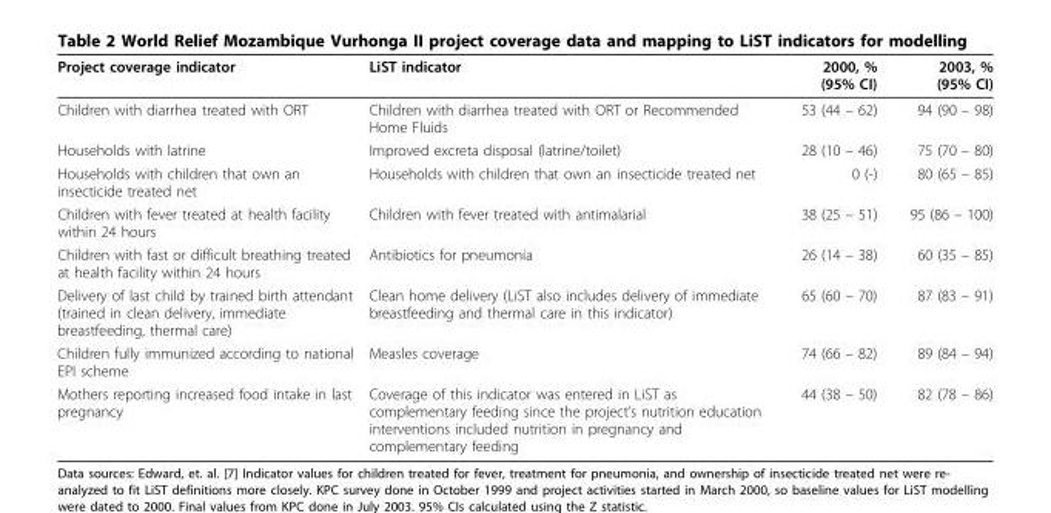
<table><thead><tr><td>Project coverage indicator</td><td>LiST indicator</td><td>2000, % (95% CI)</td><td>2003, % (95% CI)</td></tr></thead><tbody><tr><td>Children with diarrhea treated with ORT</td><td>Children with diarrhea treated with ORT or Recommended Home Fluids</td><td>53 (44 – 62)</td><td>94 (90 – 98)</td></tr><tr><td>Households with latrine</td><td>Improved excreta disposal (latrine/toilet)</td><td>28 (10 – 46)</td><td>75 (70 – 80)</td></tr><tr><td>Households with children that own an insecticide treated net</td><td>Households with children that own an insecticide treated net</td><td>0 (-)</td><td>80 (65 – 85)</td></tr><tr><td>Children with fever treated at health facility within 24 hours</td><td>Children with fever treated with antimalarial</td><td>38 (25 – 51)</td><td>95 (86 – 100)</td></tr><tr><td>Children with fast or difficult breathing treated at health facility within 24 hours</td><td>Antibiotics for pneumonia</td><td>26 (14 – 38)</td><td>60 (35 – 85)</td></tr><tr><td>Delivery of last child by trained birth attendant (trained in clean delivery, immediate breastfeeding, thermal care)</td><td>Clean home delivery (LiST also includes delivery of immediate breastfeeding and thermal care in this indicator)</td><td>65 (60 – 70)</td><td>87 (83 – 91)</td></tr><tr><td>Children fully immunized according to national EPI scheme</td><td>Measles coverage</td><td>74 (66 – 82)</td><td>89 (84 – 94)</td></tr><tr><td>Mothers reporting increased food intake in last pregnancy</td><td>Coverage of this indicator was entered in LiST as complementary feeding since the project’s nutrition education interventions included nutrition in pregnancy and complementary feeding</td><td>44 (38 – 50)</td><td>82 (78 – 86)</td></tr></tbody></table>